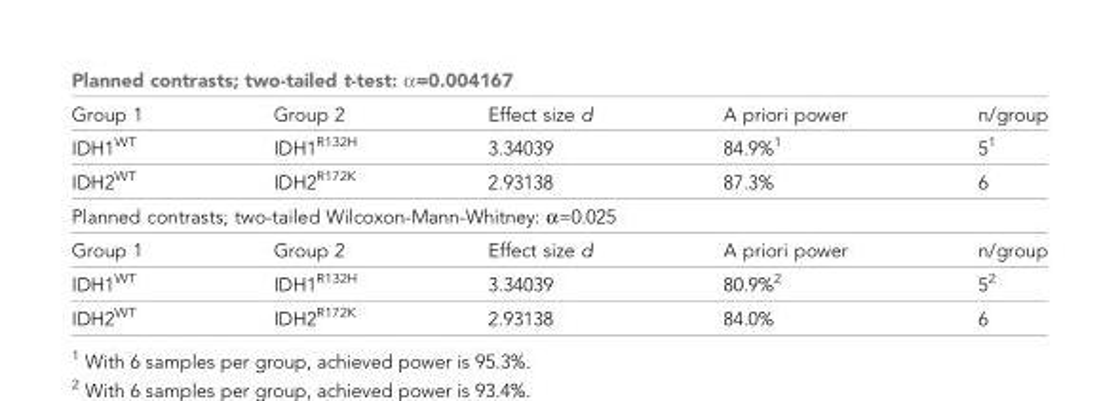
<table><thead><tr><td colspan="5">Planned contrasts; two-tailed t-test: α=0.004167</td></tr><tr><td>Group 1</td><td>Group 2</td><td>Effect size d</td><td>A priori power</td><td>n/group</td></tr></thead><tbody><tr><td>IDH1<sup>WT</sup></td><td>IDH1<sup>R132H</sup></td><td>3.34039</td><td>84.9%<sup>1</sup></td><td>5<sup>1</sup></td></tr><tr><td>IDH2<sup>WT</sup></td><td>IDH2<sup>R172K</sup></td><td>2.93138</td><td>87.3%</td><td>6</td></tr><tr><td colspan="5">Planned contrasts; two-tailed Wilcoxon-Mann-Whitney: α=0.025</td></tr><tr><td>Group 1</td><td>Group 2</td><td>Effect size d</td><td>A priori power</td><td>n/group</td></tr><tr><td>IDH1<sup>WT</sup></td><td>IDH1<sup>R132H</sup></td><td>3.34039</td><td>80.9%<sup>2</sup></td><td>5<sup>2</sup></td></tr><tr><td>IDH2<sup>WT</sup></td><td>IDH2<sup>R172K</sup></td><td>2.93138</td><td>84.0%</td><td>6</td></tr></tbody></table>